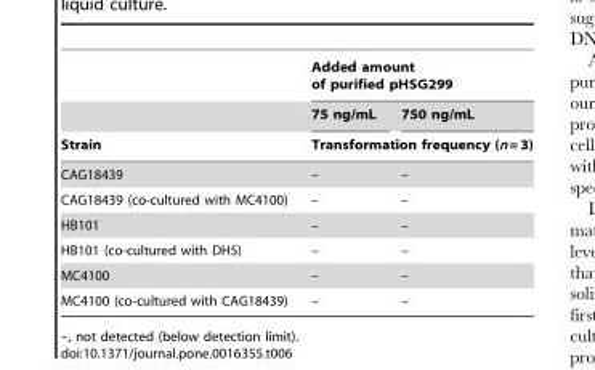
<table><thead><tr><td rowspan="3">Strain</td><td colspan="2">Added amount of purified pHSG299</td></tr><tr><td>75 ng/mL</td><td>750 ng/mL</td></tr><tr><td colspan="2">Transformation frequency (n = 3)</td></tr></thead><tbody><tr><td>CAG18439</td><td>–</td><td>–</td></tr><tr><td>CAG18439 (co-cultured with MC4100)</td><td>–</td><td>–</td></tr><tr><td>HB101</td><td>–</td><td>–</td></tr><tr><td>HB101 (co-cultured with DH5)</td><td>–</td><td>–</td></tr><tr><td>MC4100</td><td>–</td><td>–</td></tr><tr><td>MC4100 (co-cultured with CAG18439)</td><td>–</td><td>–</td></tr></tbody></table>